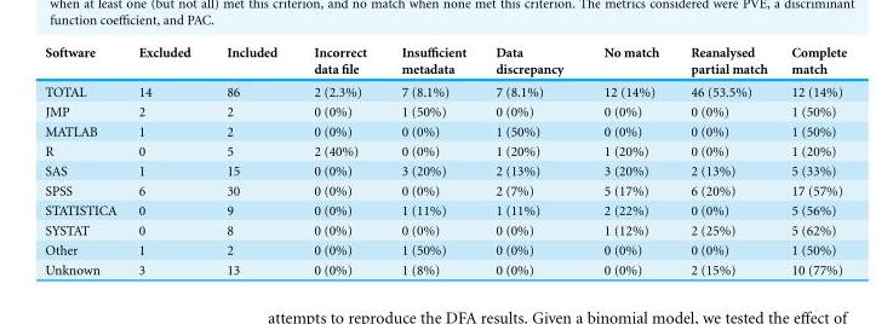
<table><thead><tr><td>Software</td><td>Excluded</td><td>Included</td><td>Incorrect data file</td><td>Insufficient metadata</td><td>Data discrepancy</td><td>No match</td><td>Reanalysed partial match</td><td>Complete match</td></tr></thead><tbody><tr><td>TOTAL</td><td>14</td><td>86</td><td>2 (2.3%)</td><td>7 (8.1%)</td><td>7 (8.1%)</td><td>12 (14%)</td><td>46 (53.5%)</td><td>12 (14%)</td></tr><tr><td>JMP</td><td>2</td><td>2</td><td>0 (0%)</td><td>1 (50%)</td><td>0 (0%)</td><td>0 (0%)</td><td>0 (0%)</td><td>1 (50%)</td></tr><tr><td>MATLAB</td><td>1</td><td>2</td><td>0 (0%)</td><td>0 (0%)</td><td>1 (50%)</td><td>0 (0%)</td><td>0 (0%)</td><td>1 (50%)</td></tr><tr><td>R</td><td>0</td><td>5</td><td>2 (40%)</td><td>0 (0%)</td><td>1 (20%)</td><td>1 (20%)</td><td>0 (0%)</td><td>1 (20%)</td></tr><tr><td>SAS</td><td>1</td><td>15</td><td>0 (0%)</td><td>3 (20%)</td><td>2 (13%)</td><td>3 (20%)</td><td>2 (13%)</td><td>5 (33%)</td></tr><tr><td>SPSS</td><td>6</td><td>30</td><td>0 (0%)</td><td>0 (0%)</td><td>2 (7%)</td><td>5 (17%)</td><td>6 (20%)</td><td>17 (57%)</td></tr><tr><td>STATISTICA</td><td>0</td><td>9</td><td>0 (0%)</td><td>1 (11%)</td><td>1 (11%)</td><td>2 (22%)</td><td>0 (0%)</td><td>5 (56%)</td></tr><tr><td>SYSTAT</td><td>0</td><td>8</td><td>0 (0%)</td><td>0 (0%)</td><td>0 (0%)</td><td>1 (12%)</td><td>2 (25%)</td><td>5 (62%)</td></tr><tr><td>Other</td><td>1</td><td>2</td><td>0 (0%)</td><td>1 (50%)</td><td>0 (0%)</td><td>0 (0%)</td><td>0 (0%)</td><td>1 (50%)</td></tr><tr><td>Unknown</td><td>3</td><td>13</td><td>0 (0%)</td><td>1 (8%)</td><td>0 (0%)</td><td>0 (0%)</td><td>2 (15%)</td><td>10 (77%)</td></tr></tbody></table>